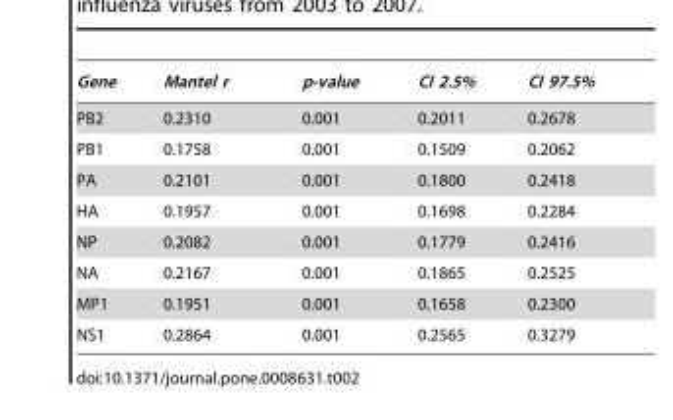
<table><thead><tr><td>Gene</td><td>Mantel r</td><td>p-value</td><td>CI 2.5%</td><td>CI 97.5%</td></tr></thead><tbody><tr><td>PB2</td><td>0.2310</td><td>0.001</td><td>0.2011</td><td>0.2678</td></tr><tr><td>PB1</td><td>0.1758</td><td>0.001</td><td>0.1509</td><td>0.2062</td></tr><tr><td>PA</td><td>0.2101</td><td>0.001</td><td>0.1800</td><td>0.2418</td></tr><tr><td>HA</td><td>0.1957</td><td>0.001</td><td>0.1698</td><td>0.2284</td></tr><tr><td>NP</td><td>0.2082</td><td>0.001</td><td>0.1779</td><td>0.2416</td></tr><tr><td>NA</td><td>0.2167</td><td>0.001</td><td>0.1865</td><td>0.2525</td></tr><tr><td>MP1</td><td>0.1951</td><td>0.001</td><td>0.1658</td><td>0.2300</td></tr><tr><td>NS1</td><td>0.2864</td><td>0.001</td><td>0.2565</td><td>0.3279</td></tr></tbody></table>